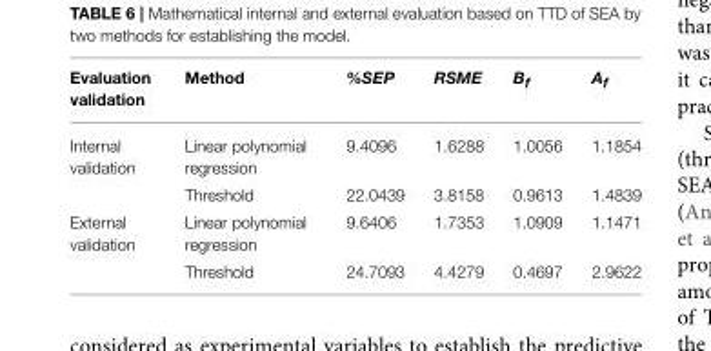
<table><thead><tr><td>Evaluation validation</td><td>Method</td><td>%SEP</td><td>RSME</td><td>B<sub>f</sub></td><td>A<sub>f</sub></td></tr></thead><tbody><tr><td rowspan="2">Internal validation</td><td>Linear polynomial regression</td><td>9.4096</td><td>1.6288</td><td>1.0056</td><td>1.1854</td></tr><tr><td>Threshold</td><td>22.0439</td><td>3.8158</td><td>0.9613</td><td>1.4839</td></tr><tr><td rowspan="2">External validation</td><td>Linear polynomial regression</td><td>9.6406</td><td>1.7353</td><td>1.0909</td><td>1.1471</td></tr><tr><td>Threshold</td><td>24.7093</td><td>4.4279</td><td>0.4697</td><td>2.9622</td></tr></tbody></table>